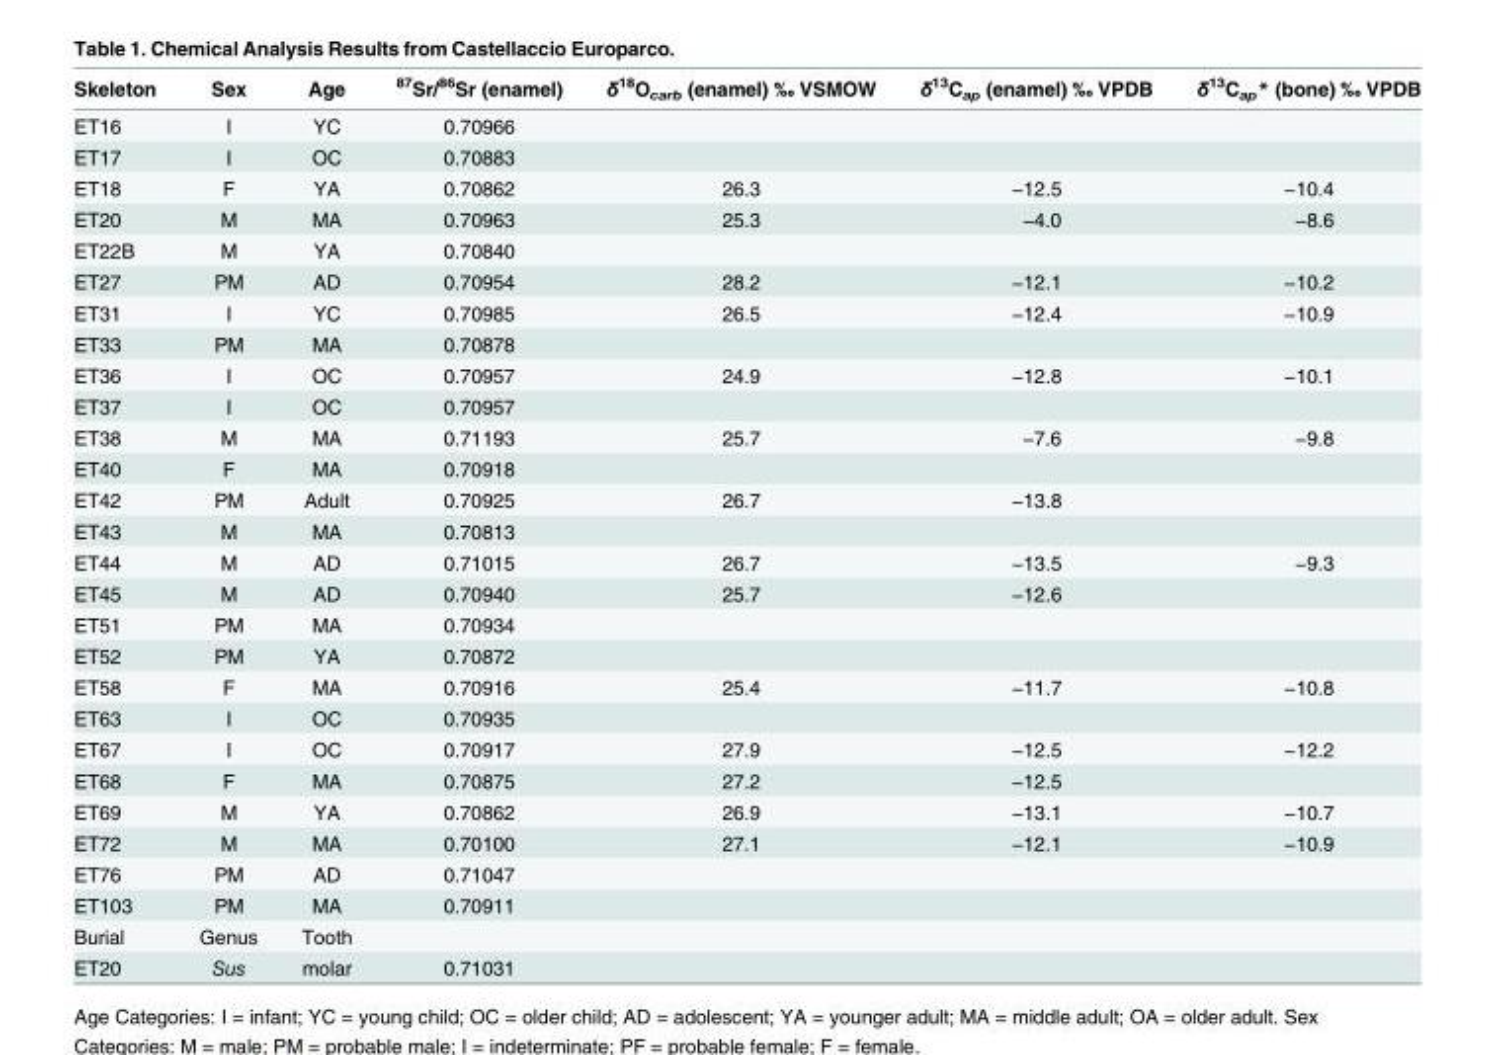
<table><thead><tr><td>Skeleton</td><td>Sex</td><td>Age</td><td><sup>87</sup>Sr/<sup>86</sup>Sr (enamel)</td><td>δ<sup>18</sup>O<sub>carb</sub> (enamel) ‰ VSMOW</td><td>δ<sup>13</sup>C<sub>ap</sub> (enamel) ‰ VPDB</td><td>δ<sup>13</sup>C<sub>ap</sub>* (bone) ‰ VPDB</td></tr></thead><tbody><tr><td>ET16</td><td>I</td><td>YC</td><td>0.70966</td><td></td><td></td><td></td></tr><tr><td>ET17</td><td>I</td><td>OC</td><td>0.70883</td><td></td><td></td><td></td></tr><tr><td>ET18</td><td>F</td><td>YA</td><td>0.70862</td><td>26.3</td><td>−12.5</td><td>−10.4</td></tr><tr><td>ET20</td><td>M</td><td>MA</td><td>0.70963</td><td>25.3</td><td>−4.0</td><td>−8.6</td></tr><tr><td>ET22B</td><td>M</td><td>YA</td><td>0.70840</td><td></td><td></td><td></td></tr><tr><td>ET27</td><td>PM</td><td>AD</td><td>0.70954</td><td>28.2</td><td>−12.1</td><td>−10.2</td></tr><tr><td>ET31</td><td>I</td><td>YC</td><td>0.70985</td><td>26.5</td><td>−12.4</td><td>−10.9</td></tr><tr><td>ET33</td><td>PM</td><td>MA</td><td>0.70878</td><td></td><td></td><td></td></tr><tr><td>ET36</td><td>I</td><td>OC</td><td>0.70957</td><td>24.9</td><td>−12.8</td><td>−10.1</td></tr><tr><td>ET37</td><td>I</td><td>OC</td><td>0.70957</td><td></td><td></td><td></td></tr><tr><td>ET38</td><td>M</td><td>MA</td><td>0.71193</td><td>25.7</td><td>−7.6</td><td>−9.8</td></tr><tr><td>ET40</td><td>F</td><td>MA</td><td>0.70918</td><td></td><td></td><td></td></tr><tr><td>ET42</td><td>PM</td><td>Adult</td><td>0.70925</td><td>26.7</td><td>−13.8</td><td></td></tr><tr><td>ET43</td><td>M</td><td>MA</td><td>0.70813</td><td></td><td></td><td></td></tr><tr><td>ET44</td><td>M</td><td>AD</td><td>0.71015</td><td>26.7</td><td>−13.5</td><td>−9.3</td></tr><tr><td>ET45</td><td>M</td><td>AD</td><td>0.70940</td><td>25.7</td><td>−12.6</td><td></td></tr><tr><td>ET51</td><td>PM</td><td>MA</td><td>0.70934</td><td></td><td></td><td></td></tr><tr><td>ET52</td><td>PM</td><td>YA</td><td>0.70872</td><td></td><td></td><td></td></tr><tr><td>ET58</td><td>F</td><td>MA</td><td>0.70916</td><td>25.4</td><td>−11.7</td><td>−10.8</td></tr><tr><td>ET63</td><td>I</td><td>OC</td><td>0.70935</td><td></td><td></td><td></td></tr><tr><td>ET67</td><td>I</td><td>OC</td><td>0.70917</td><td>27.9</td><td>−12.5</td><td>−12.2</td></tr><tr><td>ET68</td><td>F</td><td>MA</td><td>0.70875</td><td>27.2</td><td>−12.5</td><td></td></tr><tr><td>ET69</td><td>M</td><td>YA</td><td>0.70862</td><td>26.9</td><td>−13.1</td><td>−10.7</td></tr><tr><td>ET72</td><td>M</td><td>MA</td><td>0.70100</td><td>27.1</td><td>−12.1</td><td>−10.9</td></tr><tr><td>ET76</td><td>PM</td><td>AD</td><td>0.71047</td><td></td><td></td><td></td></tr><tr><td>ET103</td><td>PM</td><td>MA</td><td>0.70911</td><td></td><td></td><td></td></tr><tr><td>Burial</td><td>Genus</td><td>Tooth</td><td></td><td></td><td></td><td></td></tr><tr><td>ET20</td><td>Sus</td><td>molar</td><td>0.71031</td><td></td><td></td><td></td></tr></tbody></table>